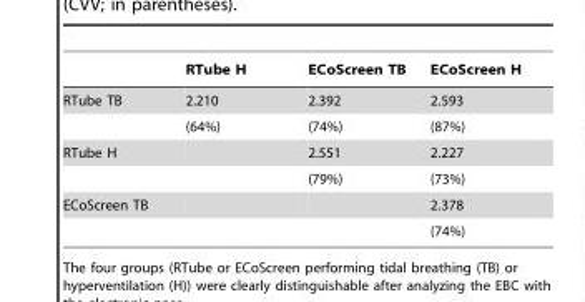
<table><thead><tr><td></td><td>RTube H</td><td>ECoScreen TB</td><td>ECoScreen H</td></tr></thead><tbody><tr><td rowspan="2">RTube TB</td><td>2.210</td><td>2.392</td><td>2.593</td></tr><tr><td>(64%)</td><td>(74%)</td><td>(87%)</td></tr><tr><td rowspan="2">RTube H</td><td></td><td>2.551</td><td>2.227</td></tr><tr><td></td><td>(79%)</td><td>(73%)</td></tr><tr><td rowspan="2">ECoScreen TB</td><td></td><td></td><td>2.378</td></tr><tr><td></td><td></td><td>(74%)</td></tr></tbody></table>